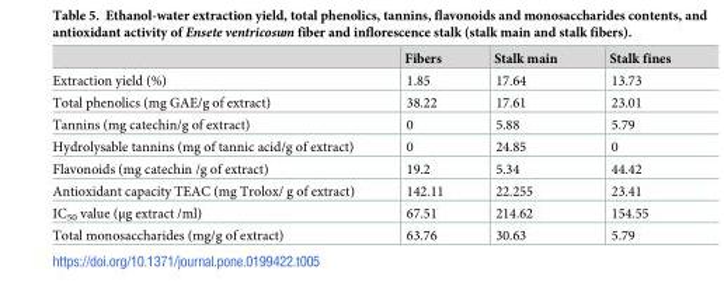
<table><thead><tr><td></td><td>Fibers</td><td>Stalk main</td><td>Stalk fines</td></tr></thead><tbody><tr><td>Extraction yield (%)</td><td>1.85</td><td>17.64</td><td>13.73</td></tr><tr><td>Total phenolics (mg GAE/g of extract)</td><td>38.22</td><td>17.61</td><td>23.01</td></tr><tr><td>Tannins (mg catechin/g of extract)</td><td>0</td><td>5.88</td><td>5.79</td></tr><tr><td>Hydrolysable tannins (mg of tannic acid/g of extract)</td><td>0</td><td>24.85</td><td>0</td></tr><tr><td>Flavonoids (mg catechin /g of extract)</td><td>19.2</td><td>5.34</td><td>44.42</td></tr><tr><td>Antioxidant capacity TEAC (mg Trolox/ g of extract)</td><td>142.11</td><td>22.255</td><td>23.41</td></tr><tr><td>IC<sub>50</sub> value (μg extract /ml)</td><td>67.51</td><td>214.62</td><td>154.55</td></tr><tr><td>Total monosaccharides (mg/g of extract)</td><td>63.76</td><td>30.63</td><td>5.79</td></tr></tbody></table>